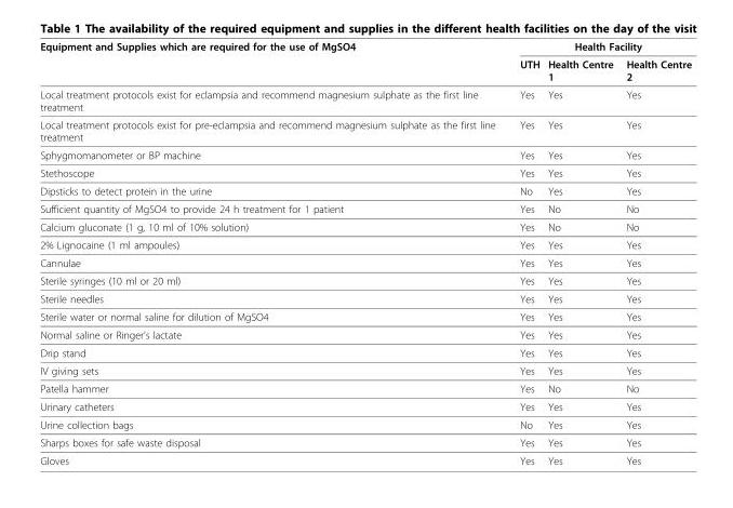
<table><thead><tr><td rowspan="2">Equipment and Supplies which are required for the use of MgSO4</td><td colspan="3">Health Facility</td></tr><tr><td>UTH</td><td>Health Centre 1</td><td>Health Centre 2</td></tr></thead><tbody><tr><td>Local treatment protocols exist for eclampsia and recommend magnesium sulphate as the first line treatment</td><td>Yes</td><td>Yes</td><td>Yes</td></tr><tr><td>Local treatment protocols exist for pre-eclampsia and recommend magnesium sulphate as the first line treatment</td><td>Yes</td><td>Yes</td><td>Yes</td></tr><tr><td>Sphygmomanometer or BP machine</td><td>Yes</td><td>Yes</td><td>Yes</td></tr><tr><td>Stethoscope</td><td>Yes</td><td>Yes</td><td>Yes</td></tr><tr><td>Dipsticks to detect protein in the urine</td><td>No</td><td>Yes</td><td>Yes</td></tr><tr><td>Sufficient quantity of MgSO4 to provide 24 h treatment for 1 patient</td><td>Yes</td><td>No</td><td>No</td></tr><tr><td>Calcium gluconate (1 g, 10 ml of 10% solution)</td><td>Yes</td><td>No</td><td>No</td></tr><tr><td>2% Lignocaine (1 ml ampoules)</td><td>Yes</td><td>Yes</td><td>Yes</td></tr><tr><td>Cannulae</td><td>Yes</td><td>Yes</td><td>Yes</td></tr><tr><td>Sterile syringes (10 ml or 20 ml)</td><td>Yes</td><td>Yes</td><td>Yes</td></tr><tr><td>Sterile needles</td><td>Yes</td><td>Yes</td><td>Yes</td></tr><tr><td>Sterile water or normal saline for dilution of MgSO4</td><td>Yes</td><td>Yes</td><td>Yes</td></tr><tr><td>Normal saline or Ringer’s lactate</td><td>Yes</td><td>Yes</td><td>Yes</td></tr><tr><td>Drip stand</td><td>Yes</td><td>Yes</td><td>Yes</td></tr><tr><td>IV giving sets</td><td>Yes</td><td>Yes</td><td>Yes</td></tr><tr><td>Patella hammer</td><td>Yes</td><td>No</td><td>No</td></tr><tr><td>Urinary catheters</td><td>Yes</td><td>Yes</td><td>Yes</td></tr><tr><td>Urine collection bags</td><td>No</td><td>Yes</td><td>Yes</td></tr><tr><td>Sharps boxes for safe waste disposal</td><td>Yes</td><td>Yes</td><td>Yes</td></tr><tr><td>Gloves</td><td>Yes</td><td>Yes</td><td>Yes</td></tr></tbody></table>